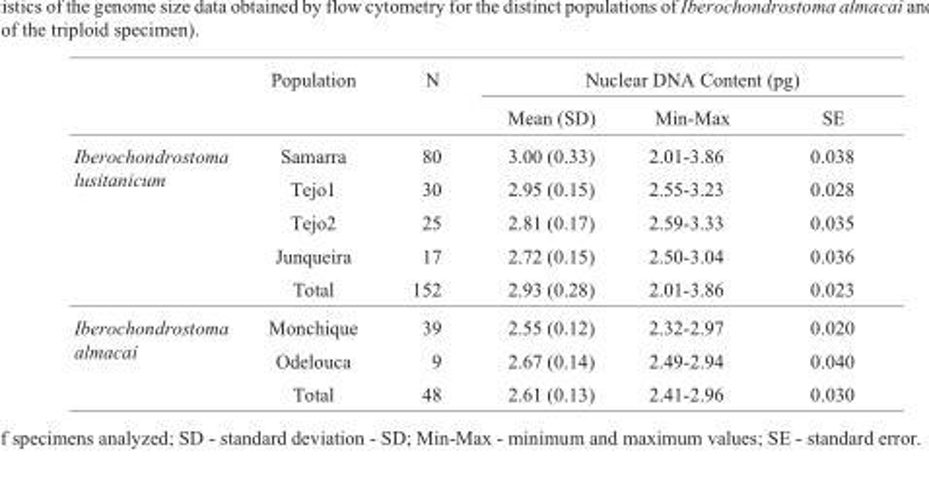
<table><thead><tr><td rowspan="2"></td><td rowspan="2">Population</td><td rowspan="2">N</td><td colspan="3">Nuclear DNA Content (pg)</td></tr><tr><td>Mean (SD)</td><td>Min-Max</td><td>SE</td></tr></thead><tbody><tr><td rowspan="5">Iberochondrostoma lusitanicum</td><td>Samarra</td><td>80</td><td>3.00 (0.33)</td><td>2.01-3.86</td><td>0.038</td></tr><tr><td>Tejo1</td><td>30</td><td>2.95 (0.15)</td><td>2.55-3.23</td><td>0.028</td></tr><tr><td>Tejo2</td><td>25</td><td>2.81 (0.17)</td><td>2.59-3.33</td><td>0.035</td></tr><tr><td>Junqueira</td><td>17</td><td>2.72 (0.15)</td><td>2.50-3.04</td><td>0.036</td></tr><tr><td>Total</td><td>152</td><td>2.93 (0.28)</td><td>2.01-3.86</td><td>0.023</td></tr><tr><td rowspan="3">Iberochondrostoma almacai</td><td>Monchique</td><td>39</td><td>2.55 (0.12)</td><td>2.32-2.97</td><td>0.020</td></tr><tr><td>Odelouca</td><td>9</td><td>2.67 (0.14)</td><td>2.49-2.94</td><td>0.040</td></tr><tr><td>Total</td><td>48</td><td>2.61 (0.13)</td><td>2.41-2.96</td><td>0.030</td></tr></tbody></table>